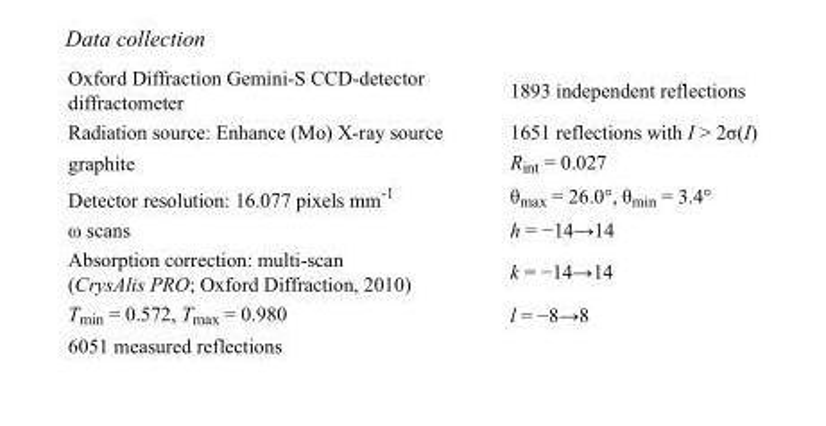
<table><tbody><tr><td>Oxford Diffraction Gemini-S CCD-detector diffractometer</td><td>1893 independent reflections</td></tr><tr><td>Radiation source: Enhance (Mo) X-ray source</td><td>1651 reflections with I &gt; 2σ(I)</td></tr><tr><td>graphite</td><td>R<sub>int</sub> = 0.027</td></tr><tr><td>Detector resolution: 16.077 pixels mm<sup>-1</sup></td><td>θ<sub>max</sub> = 26.0°, θ<sub>min</sub> = 3.4°</td></tr><tr><td>ω scans</td><td>h = −14→14</td></tr><tr><td>Absorption correction: multi-scan (CrysAlis PRO; Oxford Diffraction, 2010)</td><td>k = −14→14</td></tr><tr><td>T<sub>min</sub> = 0.572, T<sub>max</sub> = 0.980</td><td>l = −8→8</td></tr><tr><td>6051 measured reflections</td><td></td></tr></tbody></table>